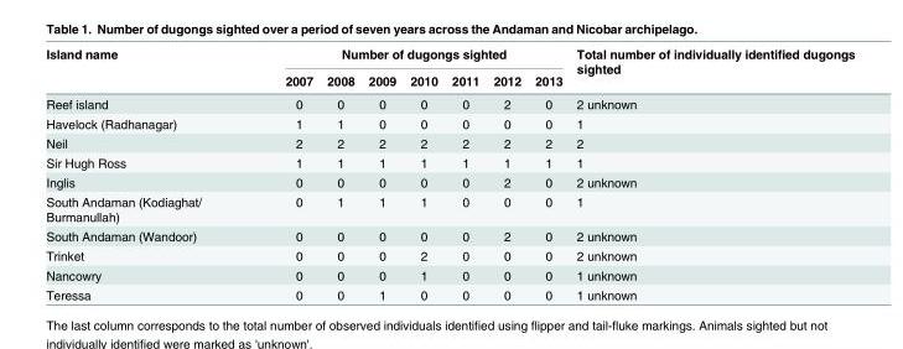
<table><thead><tr><td rowspan="2">Island name</td><td colspan="7">Number of dugongs sighted</td><td rowspan="2">Total number of individually identified dugongs sighted</td></tr><tr><td>2007</td><td>2008</td><td>2009</td><td>2010</td><td>2011</td><td>2012</td><td>2013</td></tr></thead><tbody><tr><td>Reef island</td><td>0</td><td>0</td><td>0</td><td>0</td><td>0</td><td>2</td><td>0</td><td>2 unknown</td></tr><tr><td>Havelock (Radhanagar)</td><td>1</td><td>1</td><td>0</td><td>0</td><td>0</td><td>0</td><td>0</td><td>1</td></tr><tr><td>Neil</td><td>2</td><td>2</td><td>2</td><td>2</td><td>2</td><td>2</td><td>2</td><td>2</td></tr><tr><td>Sir Hugh Ross</td><td>1</td><td>1</td><td>1</td><td>1</td><td>1</td><td>1</td><td>1</td><td>1</td></tr><tr><td>Inglis</td><td>0</td><td>0</td><td>0</td><td>0</td><td>0</td><td>2</td><td>0</td><td>2 unknown</td></tr><tr><td>South Andaman (Kodiaghat/ Burmanullah)</td><td>0</td><td>1</td><td>1</td><td>1</td><td>0</td><td>0</td><td>0</td><td>1</td></tr><tr><td>South Andaman (Wandoor)</td><td>0</td><td>0</td><td>0</td><td>0</td><td>0</td><td>2</td><td>0</td><td>2 unknown</td></tr><tr><td>Trinket</td><td>0</td><td>0</td><td>0</td><td>2</td><td>0</td><td>0</td><td>0</td><td>2 unknown</td></tr><tr><td>Nancowry</td><td>0</td><td>0</td><td>0</td><td>1</td><td>0</td><td>0</td><td>0</td><td>1 unknown</td></tr><tr><td>Teressa</td><td>0</td><td>0</td><td>1</td><td>0</td><td>0</td><td>0</td><td>0</td><td>1 unknown</td></tr></tbody></table>